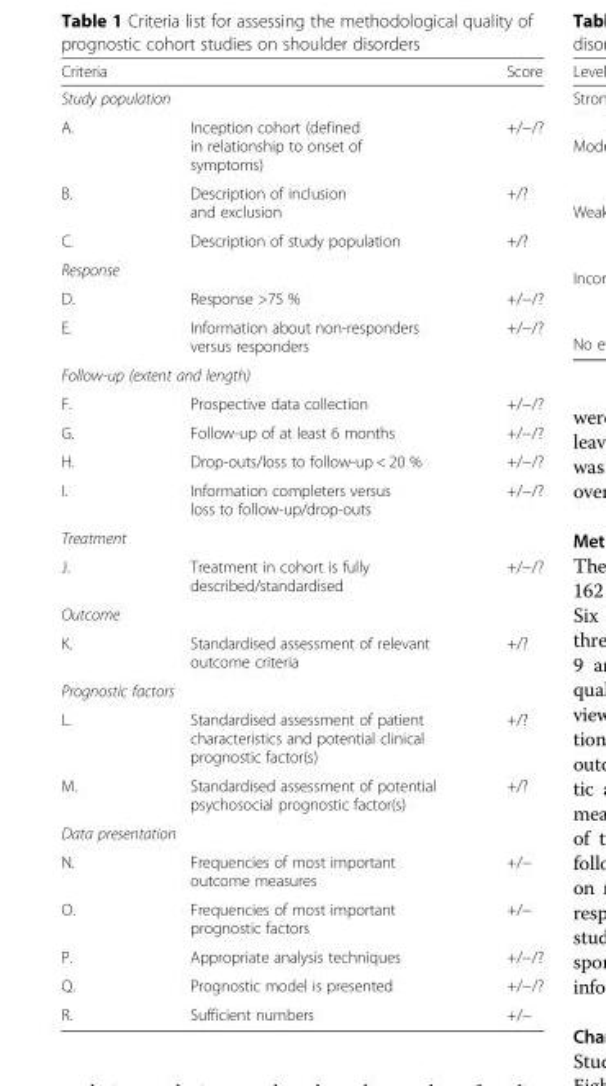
<table><thead><tr><td>Criteria</td><td></td><td>Score</td></tr></thead><tbody><tr><td colspan="3">Study population</td></tr><tr><td>A.</td><td>Inception cohort (defined in relationship to onset of symptoms)</td><td>+/−/?</td></tr><tr><td>B.</td><td>Description of inclusion and exclusion</td><td>+/?</td></tr><tr><td>C.</td><td>Description of study population</td><td>+/?</td></tr><tr><td colspan="3">Response</td></tr><tr><td>D.</td><td>Response &gt;75 %</td><td>+/−/?</td></tr><tr><td>E.</td><td>Information about non-responders versus responders</td><td>+/−/?</td></tr><tr><td colspan="3">Follow-up (extent and length)</td></tr><tr><td>F.</td><td>Prospective data collection</td><td>+/−/?</td></tr><tr><td>G.</td><td>Follow-up of at least 6 months</td><td>+/−/?</td></tr><tr><td>H.</td><td>Drop-outs/loss to follow-up &lt; 20 %</td><td>+/−/?</td></tr><tr><td>I.</td><td>Information completers versus loss to follow-up/drop-outs</td><td>+/−/?</td></tr><tr><td colspan="3">Treatment</td></tr><tr><td>J.</td><td>Treatment in cohort is fully described/standardised</td><td>+/−/?</td></tr><tr><td colspan="3">Outcome</td></tr><tr><td>K.</td><td>Standardised assessment of relevant outcome criteria</td><td>+/?</td></tr><tr><td colspan="3">Prognostic factors</td></tr><tr><td>L.</td><td>Standardised assessment of patient characteristics and potential clinical prognostic factor(s)</td><td>+/?</td></tr><tr><td>M.</td><td>Standardised assessment of potential psychosocial prognostic factor(s)</td><td>+/?</td></tr><tr><td colspan="3">Data presentation</td></tr><tr><td>N.</td><td>Frequencies of most important outcome measures</td><td>+/−</td></tr><tr><td>O.</td><td>Frequencies of most important prognostic factors</td><td>+/−</td></tr><tr><td>P.</td><td>Appropriate analysis techniques</td><td>+/−/?</td></tr><tr><td>Q.</td><td>Prognostic model is presented</td><td>+/−/?</td></tr><tr><td>R.</td><td>Sufficient numbers</td><td>+/−</td></tr></tbody></table>